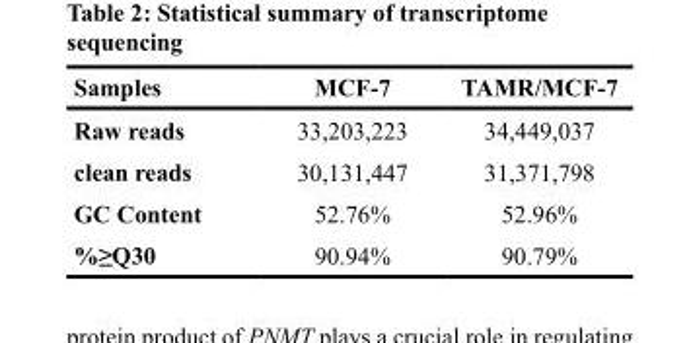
<table><thead><tr><td>Samples</td><td>MCF-7</td><td>TAMR/MCF-7</td></tr></thead><tbody><tr><td>Raw reads</td><td>33,203,223</td><td>34,449,037</td></tr><tr><td>clean reads</td><td>30,131,447</td><td>31,371,798</td></tr><tr><td>GC Content</td><td>52.76%</td><td>52.96%</td></tr><tr><td>%≥Q30</td><td>90.94%</td><td>90.79%</td></tr></tbody></table>